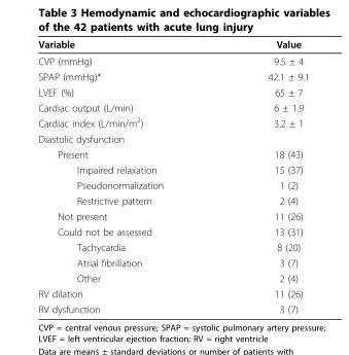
<table><thead><tr><td>Variable</td><td>Value</td></tr></thead><tbody><tr><td>CVP (mmHg)</td><td>9.5 ± 4</td></tr><tr><td>SPAP (mmHg)*</td><td>42.1 ± 9.1</td></tr><tr><td>LVEF (%)</td><td>65 ± 7</td></tr><tr><td>Cardiac output (L/min)</td><td>6 ± 1.9</td></tr><tr><td>Cardiac index (L/min/m<sup>2</sup>)</td><td>3.2 ± 1</td></tr><tr><td colspan="2">Diastolic dysfunction</td></tr><tr><td>Present</td><td>18 (43)</td></tr><tr><td>Impaired relaxation</td><td>15 (37)</td></tr><tr><td>Pseudonormalization</td><td>1 (2)</td></tr><tr><td>Restrictive pattern</td><td>2 (4)</td></tr><tr><td>Not present</td><td>11 (26)</td></tr><tr><td>Could not be assessed</td><td>13 (31)</td></tr><tr><td>Tachycardia</td><td>8 (20)</td></tr><tr><td>Atrial fibrillation</td><td>3 (7)</td></tr><tr><td>Other</td><td>2 (4)</td></tr><tr><td>RV dilation</td><td>11 (26)</td></tr><tr><td>RV dysfunction</td><td>3 (7)</td></tr></tbody></table>